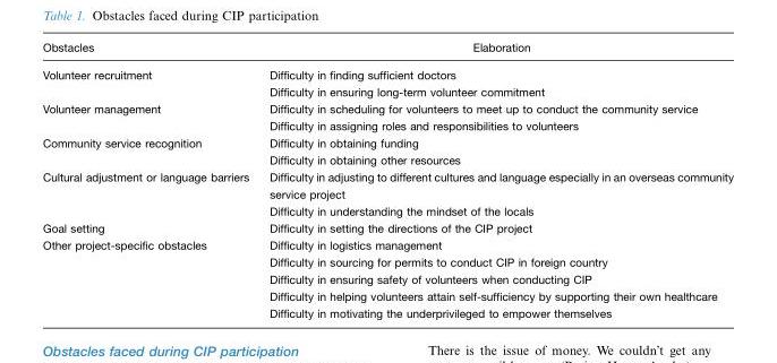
<table><thead><tr><td>Obstacles</td><td>Elaboration</td></tr></thead><tbody><tr><td>Volunteer recruitment</td><td>Difficulty in finding sufficient doctors Difficulty in ensuring long-term volunteer commitment</td></tr><tr><td>Volunteer management</td><td>Difficulty in scheduling for volunteers to meet up to conduct the community service Difficulty in assigning roles and responsibilities to volunteers</td></tr><tr><td>Community service recognition</td><td>Difficulty in obtaining funding Difficulty in obtaining other resources</td></tr><tr><td>Cultural adjustment or language barriers</td><td>Difficulty in adjusting to different cultures and language especially in an overseas community service project Difficulty in understanding the mindset of the locals</td></tr><tr><td>Goal setting</td><td>Difficulty in setting the directions of the CIP project</td></tr><tr><td>Other project-specific obstacles</td><td>Difficulty in logistics management Difficulty in sourcing for permits to conduct CIP in foreign country Difficulty in ensuring safety of volunteers when conducting CIP Difficulty in helping volunteers attain self-sufficiency by supporting their own healthcare Difficulty in motivating the underprivileged to empower themselves</td></tr></tbody></table>